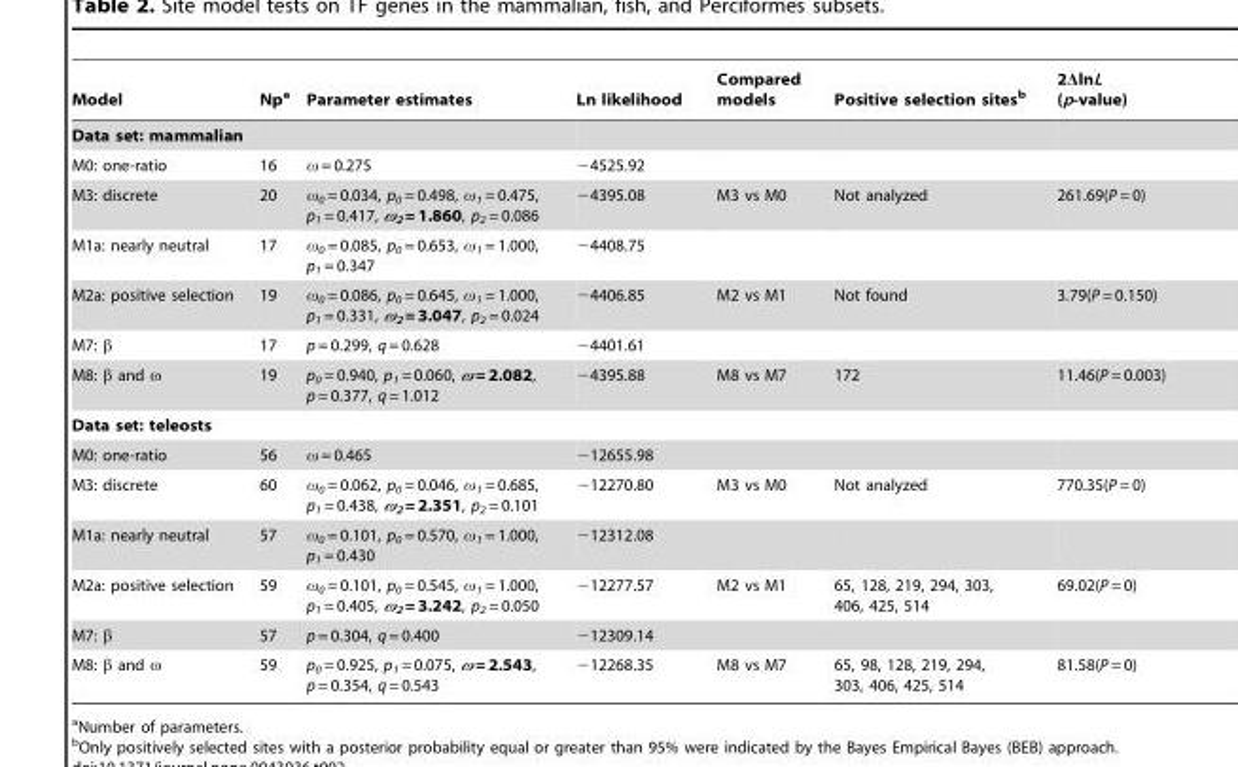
<table><thead><tr><td>Model</td><td>Np<sup>a</sup></td><td>Parameter estimates</td><td>Ln likelihood</td><td>Compared models</td><td>Positive selection sites<sup>b</sup></td><td>2ΔlnL (p-value)</td></tr></thead><tbody><tr><td colspan="7">Data set: mammalian</td></tr><tr><td>M0: one-ratio</td><td>16</td><td>ω = 0.275</td><td>−4525.92</td><td></td><td></td><td></td></tr><tr><td>M3: discrete</td><td>20</td><td>ω<sub>0</sub> = 0.034, p<sub>0</sub> = 0.498, ω<sub>1</sub> = 0.475, p<sub>1</sub> = 0.417, ω<sub>2</sub> = 1.860, p<sub>2</sub> = 0.086</td><td>−4395.08</td><td>M3 vs M0</td><td>Not analyzed</td><td>261.69(P = 0)</td></tr><tr><td>M1a: nearly neutral</td><td>17</td><td>ω<sub>0</sub> = 0.085, p<sub>0</sub> = 0.653, ω<sub>1</sub> = 1.000, p<sub>1</sub> = 0.347</td><td>−4408.75</td><td></td><td></td><td></td></tr><tr><td>M2a: positive selection</td><td>19</td><td>ω<sub>0</sub> = 0.086, p<sub>0</sub> = 0.645, ω<sub>1</sub> = 1.000, p<sub>1</sub> = 0.331, ω<sub>2</sub> = 3.047, p<sub>2</sub> = 0.024</td><td>−4406.85</td><td>M2 vs M1</td><td>Not found</td><td>3.79(P = 0.150)</td></tr><tr><td>M7: β</td><td>17</td><td>p = 0.299, q = 0.628</td><td>−4401.61</td><td></td><td></td><td></td></tr><tr><td>M8: β and ω</td><td>19</td><td>p<sub>0</sub> = 0.940, p<sub>1</sub> = 0.060, ω = 2.082, p = 0.377, q = 1.012</td><td>−4395.88</td><td>M8 vs M7</td><td>172</td><td>11.46(P = 0.003)</td></tr><tr><td colspan="7">Data set: teleosts</td></tr><tr><td>M0: one-ratio</td><td>56</td><td>ω = 0.465</td><td>−12655.98</td><td></td><td></td><td></td></tr><tr><td>M3: discrete</td><td>60</td><td>ω<sub>0</sub> = 0.062, p<sub>0</sub> = 0.046, ω<sub>1</sub> = 0.685, p<sub>1</sub> = 0.438, ω<sub>2</sub> = 2.351, p<sub>2</sub> = 0.101</td><td>−12270.80</td><td>M3 vs M0</td><td>Not analyzed</td><td>770.35(P = 0)</td></tr><tr><td>M1a: nearly neutral</td><td>57</td><td>ω<sub>0</sub> = 0.101, p<sub>0</sub> = 0.570, ω<sub>1</sub> = 1.000, p<sub>1</sub> = 0.430</td><td>−12312.08</td><td></td><td></td><td></td></tr><tr><td>M2a: positive selection</td><td>59</td><td>ω<sub>0</sub> = 0.101, p<sub>0</sub> = 0.545, ω<sub>1</sub> = 1.000, p<sub>1</sub> = 0.405, ω<sub>2</sub> = 3.242, p<sub>2</sub> = 0.050</td><td>−12277.57</td><td>M2 vs M1</td><td>65, 128, 219, 294, 303, 406, 425, 514</td><td>69.02(P = 0)</td></tr><tr><td>M7: β</td><td>57</td><td>p = 0.304, q = 0.400</td><td>−12309.14</td><td></td><td></td><td></td></tr><tr><td>M8: β and ω</td><td>59</td><td>p<sub>0</sub> = 0.925, p<sub>1</sub> = 0.075, ω = 2.543, p = 0.354, q = 0.543</td><td>−12268.35</td><td>M8 vs M7</td><td>65, 98, 128, 219, 294, 303, 406, 425, 514</td><td>81.58(P = 0)</td></tr></tbody></table>